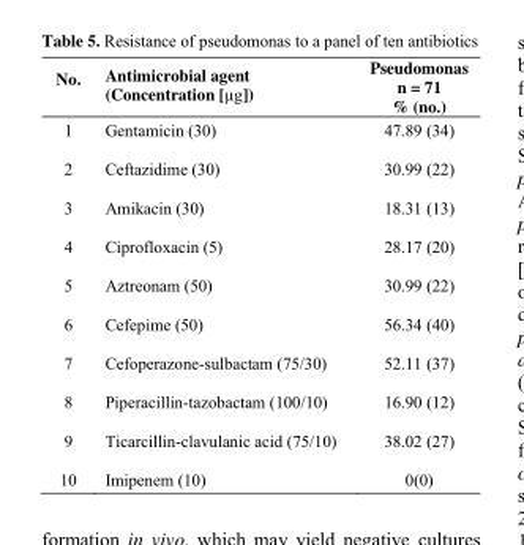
<table><thead><tr><td>No.</td><td>Antimicrobial agent (Concentration [µg])</td><td>Pseudomonas n = 71 % (no.)</td></tr></thead><tbody><tr><td>1</td><td>Gentamicin (30)</td><td>47.89 (34)</td></tr><tr><td>2</td><td>Ceftazidime (30)</td><td>30.99 (22)</td></tr><tr><td>3</td><td>Amikacin (30)</td><td>18.31 (13)</td></tr><tr><td>4</td><td>Ciprofloxacin (5)</td><td>28.17 (20)</td></tr><tr><td>5</td><td>Aztreonam (50)</td><td>30.99 (22)</td></tr><tr><td>6</td><td>Cefepime (50)</td><td>56.34 (40)</td></tr><tr><td>7</td><td>Cefoperazone-sulbactam (75/30)</td><td>52.11 (37)</td></tr><tr><td>8</td><td>Piperacillin-tazobactam (100/10)</td><td>16.90 (12)</td></tr><tr><td>9</td><td>Ticarcillin-clavulanic acid (75/10)</td><td>38.02 (27)</td></tr><tr><td>10</td><td>Imipenem (10)</td><td>0(0)</td></tr></tbody></table>